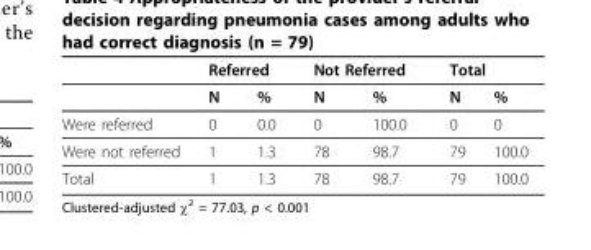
<table><thead><tr><td rowspan="2"></td><td colspan="2">Referred</td><td colspan="2">Not Referred</td><td colspan="2">Total</td></tr><tr><td>N</td><td>%</td><td>N</td><td>%</td><td>N</td><td>%</td></tr></thead><tbody><tr><td>Were referred</td><td>0</td><td>0.0</td><td>0</td><td>100.0</td><td>0</td><td>0</td></tr><tr><td>Were not referred</td><td>1</td><td>1.3</td><td>78</td><td>98.7</td><td>79</td><td>100.0</td></tr><tr><td>Total</td><td>1</td><td>1.3</td><td>78</td><td>98.7</td><td>79</td><td>100.0</td></tr></tbody></table>